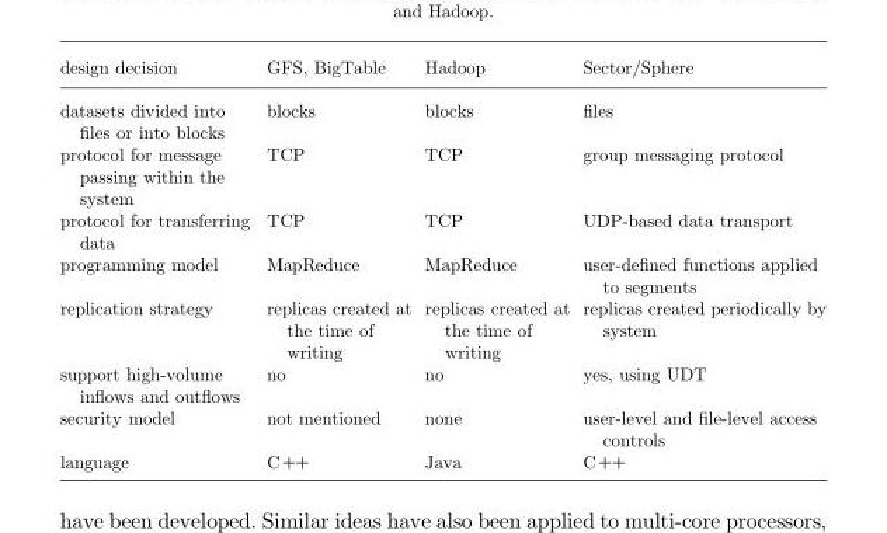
<table><thead><tr><td>design decision</td><td>GFS, BigTable</td><td>Hadoop</td><td>Sector/Sphere</td></tr></thead><tbody><tr><td>datasets divided into files or into blocks</td><td>blocks</td><td>blocks</td><td>files</td></tr><tr><td>protocol for message passing within the system</td><td>TCP</td><td>TCP</td><td>group messaging protocol</td></tr><tr><td>protocol for transferring data</td><td>TCP</td><td>TCP</td><td>UDP-based data transport</td></tr><tr><td>programming model</td><td>MapReduce</td><td>MapReduce</td><td>user-defined functions applied to segments</td></tr><tr><td>replication strategy</td><td>replicas created at the time of writing</td><td>replicas created at the time of writing</td><td>replicas created periodically by system</td></tr><tr><td>support high-volume inflows and outflows</td><td>no</td><td>no</td><td>yes, using UDT</td></tr><tr><td>security model</td><td>not mentioned</td><td>none</td><td>user-level and file-level access controls</td></tr><tr><td>language</td><td>C++</td><td>Java</td><td>C++</td></tr></tbody></table>